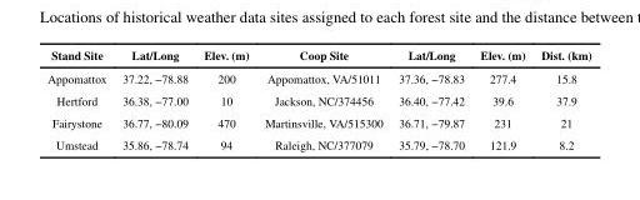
<table><thead><tr><td>Stand Site</td><td>Lat/Long</td><td>Elev. (m)</td><td>Coop Site</td><td>Lat/Long</td><td>Elev. (m)</td><td>Dist. (km)</td></tr></thead><tbody><tr><td>Appomattox</td><td>37.22, −78.88</td><td>200</td><td>Appomattox, VA/51011</td><td>37.36, −78.83</td><td>277.4</td><td>15.8</td></tr><tr><td>Hertford</td><td>36.38, −77.00</td><td>10</td><td>Jackson, NC/374456</td><td>36.40, −77.42</td><td>39.6</td><td>37.9</td></tr><tr><td>Fairystone</td><td>36.77, −80.09</td><td>470</td><td>Martinsville, VA/515300</td><td>36.71, −79.87</td><td>231</td><td>21</td></tr><tr><td>Umstead</td><td>35.86, −78.74</td><td>94</td><td>Raleigh, NC/377079</td><td>35.79, −78.70</td><td>121.9</td><td>8.2</td></tr></tbody></table>